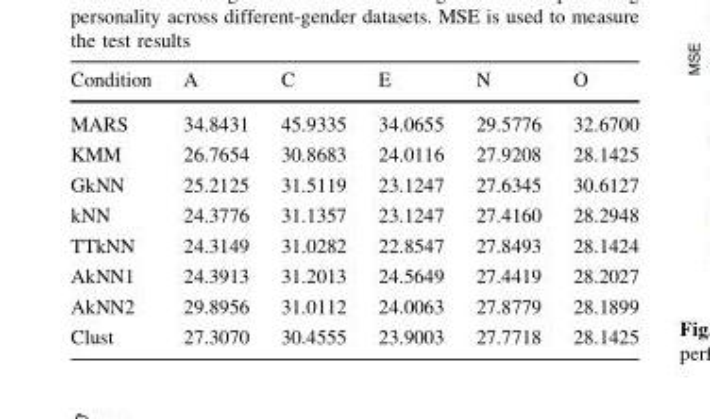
<table><thead><tr><td>Condition</td><td>A</td><td>C</td><td>E</td><td>N</td><td>O</td></tr></thead><tbody><tr><td>MARS</td><td>34.8431</td><td>45.9335</td><td>34.0655</td><td>29.5776</td><td>32.6700</td></tr><tr><td>KMM</td><td>26.7654</td><td>30.8683</td><td>24.0116</td><td>27.9208</td><td>28.1425</td></tr><tr><td>GkNN</td><td>25.2125</td><td>31.5119</td><td>23.1247</td><td>27.6345</td><td>30.6127</td></tr><tr><td>kNN</td><td>24.3776</td><td>31.1357</td><td>23.1247</td><td>27.4160</td><td>28.2948</td></tr><tr><td>TTkNN</td><td>24.3149</td><td>31.0282</td><td>22.8547</td><td>27.8493</td><td>28.1424</td></tr><tr><td>AkNN1</td><td>24.3913</td><td>31.2013</td><td>24.5649</td><td>27.4419</td><td>28.2027</td></tr><tr><td>AkNN2</td><td>29.8956</td><td>31.0112</td><td>24.0063</td><td>27.8779</td><td>28.1899</td></tr><tr><td>Clust</td><td>27.3070</td><td>30.4555</td><td>23.9003</td><td>27.7718</td><td>28.1425</td></tr></tbody></table>